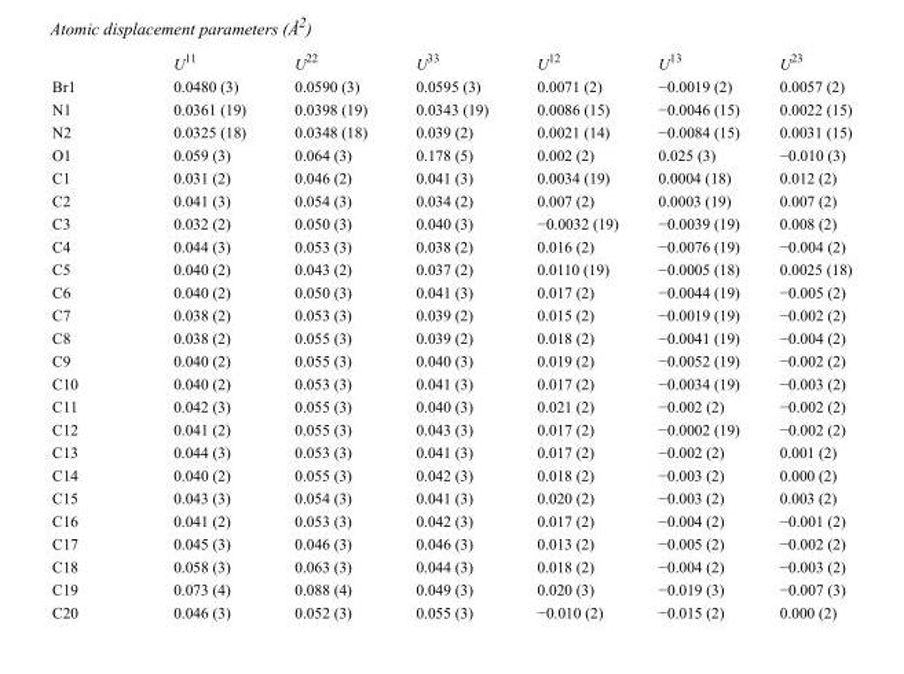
<table><thead><tr><td></td><td>U<sup>11</sup></td><td>U<sup>22</sup></td><td>U<sup>33</sup></td><td>U<sup>12</sup></td><td>U<sup>13</sup></td><td>U<sup>23</sup></td></tr></thead><tbody><tr><td>Br1</td><td>0.0480 (3)</td><td>0.0590 (3)</td><td>0.0595 (3)</td><td>0.0071 (2)</td><td>−0.0019 (2)</td><td>0.0057 (2)</td></tr><tr><td>N1</td><td>0.0361 (19)</td><td>0.0398 (19)</td><td>0.0343 (19)</td><td>0.0086 (15)</td><td>−0.0046 (15)</td><td>0.0022 (15)</td></tr><tr><td>N2</td><td>0.0325 (18)</td><td>0.0348 (18)</td><td>0.039 (2)</td><td>0.0021 (14)</td><td>−0.0084 (15)</td><td>0.0031 (15)</td></tr><tr><td>O1</td><td>0.059 (3)</td><td>0.064 (3)</td><td>0.178 (5)</td><td>0.002 (2)</td><td>0.025 (3)</td><td>−0.010 (3)</td></tr><tr><td>C1</td><td>0.031 (2)</td><td>0.046 (2)</td><td>0.041 (3)</td><td>0.0034 (19)</td><td>0.0004 (18)</td><td>0.012 (2)</td></tr><tr><td>C2</td><td>0.041 (3)</td><td>0.054 (3)</td><td>0.034 (2)</td><td>0.007 (2)</td><td>0.0003 (19)</td><td>0.007 (2)</td></tr><tr><td>C3</td><td>0.032 (2)</td><td>0.050 (3)</td><td>0.040 (3)</td><td>−0.0032 (19)</td><td>−0.0039 (19)</td><td>0.008 (2)</td></tr><tr><td>C4</td><td>0.044 (3)</td><td>0.053 (3)</td><td>0.038 (2)</td><td>0.016 (2)</td><td>−0.0076 (19)</td><td>−0.004 (2)</td></tr><tr><td>C5</td><td>0.040 (2)</td><td>0.043 (2)</td><td>0.037 (2)</td><td>0.0110 (19)</td><td>−0.0005 (18)</td><td>0.0025 (18)</td></tr><tr><td>C6</td><td>0.040 (2)</td><td>0.050 (3)</td><td>0.041 (3)</td><td>0.017 (2)</td><td>−0.0044 (19)</td><td>−0.005 (2)</td></tr><tr><td>C7</td><td>0.038 (2)</td><td>0.053 (3)</td><td>0.039 (2)</td><td>0.015 (2)</td><td>−0.0019 (19)</td><td>−0.002 (2)</td></tr><tr><td>C8</td><td>0.038 (2)</td><td>0.055 (3)</td><td>0.039 (2)</td><td>0.018 (2)</td><td>−0.0041 (19)</td><td>−0.004 (2)</td></tr><tr><td>C9</td><td>0.040 (2)</td><td>0.055 (3)</td><td>0.040 (3)</td><td>0.019 (2)</td><td>−0.0052 (19)</td><td>−0.002 (2)</td></tr><tr><td>C10</td><td>0.040 (2)</td><td>0.053 (3)</td><td>0.041 (3)</td><td>0.017 (2)</td><td>−0.0034 (19)</td><td>−0.003 (2)</td></tr><tr><td>C11</td><td>0.042 (3)</td><td>0.055 (3)</td><td>0.040 (3)</td><td>0.021 (2)</td><td>−0.002 (2)</td><td>−0.002 (2)</td></tr><tr><td>C12</td><td>0.041 (2)</td><td>0.055 (3)</td><td>0.043 (3)</td><td>0.017 (2)</td><td>−0.0002 (19)</td><td>−0.002 (2)</td></tr><tr><td>C13</td><td>0.044 (3)</td><td>0.053 (3)</td><td>0.041 (3)</td><td>0.017 (2)</td><td>−0.002 (2)</td><td>0.001 (2)</td></tr><tr><td>C14</td><td>0.040 (2)</td><td>0.055 (3)</td><td>0.042 (3)</td><td>0.018 (2)</td><td>−0.003 (2)</td><td>0.000 (2)</td></tr><tr><td>C15</td><td>0.043 (3)</td><td>0.054 (3)</td><td>0.041 (3)</td><td>0.020 (2)</td><td>−0.003 (2)</td><td>0.003 (2)</td></tr><tr><td>C16</td><td>0.041 (2)</td><td>0.053 (3)</td><td>0.042 (3)</td><td>0.017 (2)</td><td>−0.004 (2)</td><td>−0.001 (2)</td></tr><tr><td>C17</td><td>0.045 (3)</td><td>0.046 (3)</td><td>0.046 (3)</td><td>0.013 (2)</td><td>−0.005 (2)</td><td>−0.002 (2)</td></tr><tr><td>C18</td><td>0.058 (3)</td><td>0.063 (3)</td><td>0.044 (3)</td><td>0.018 (2)</td><td>−0.004 (2)</td><td>−0.003 (2)</td></tr><tr><td>C19</td><td>0.073 (4)</td><td>0.088 (4)</td><td>0.049 (3)</td><td>0.020 (3)</td><td>−0.019 (3)</td><td>−0.007 (3)</td></tr><tr><td>C20</td><td>0.046 (3)</td><td>0.052 (3)</td><td>0.055 (3)</td><td>−0.010 (2)</td><td>−0.015 (2)</td><td>0.000 (2)</td></tr></tbody></table>